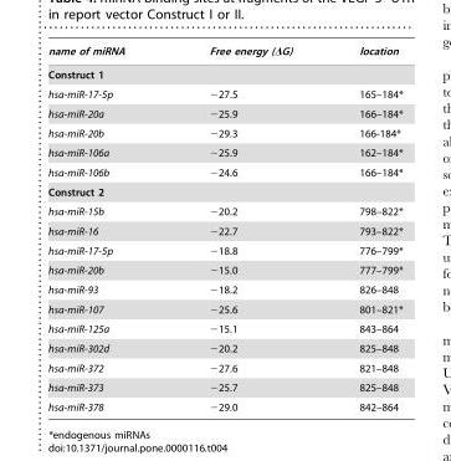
<table><thead><tr><td>name of miRNA</td><td>Free energy (ΔG)</td><td>location</td></tr></thead><tbody><tr><td colspan="3">Construct 1</td></tr><tr><td>hsa-miR-17-5p</td><td>−27.5</td><td>165–184*</td></tr><tr><td>hsa-miR-20a</td><td>−25.9</td><td>166–184*</td></tr><tr><td>hsa-miR-20b</td><td>−29.3</td><td>166-184*</td></tr><tr><td>hsa-miR-106a</td><td>−25.9</td><td>162–184*</td></tr><tr><td>hsa-miR-106b</td><td>−24.6</td><td>166–184*</td></tr><tr><td colspan="3">Construct 2</td></tr><tr><td>hsa-miR-15b</td><td>−20.2</td><td>798–822*</td></tr><tr><td>hsa-miR-16</td><td>−22.7</td><td>793–822*</td></tr><tr><td>hsa-miR-17-5p</td><td>−18.8</td><td>776–799*</td></tr><tr><td>hsa-miR-20b</td><td>−15.0</td><td>777–799*</td></tr><tr><td>hsa-miR-93</td><td>−18.2</td><td>826–848</td></tr><tr><td>hsa-miR-107</td><td>−25.6</td><td>801–821*</td></tr><tr><td>hsa-miR-125a</td><td>−15.1</td><td>843–864</td></tr><tr><td>hsa-miR-302d</td><td>−20.2</td><td>825–848</td></tr><tr><td>hsa-miR-372</td><td>−27.6</td><td>821–848</td></tr><tr><td>hsa-miR-373</td><td>−25.7</td><td>825–848</td></tr><tr><td>hsa-miR-378</td><td>−29.0</td><td>842–864</td></tr></tbody></table>